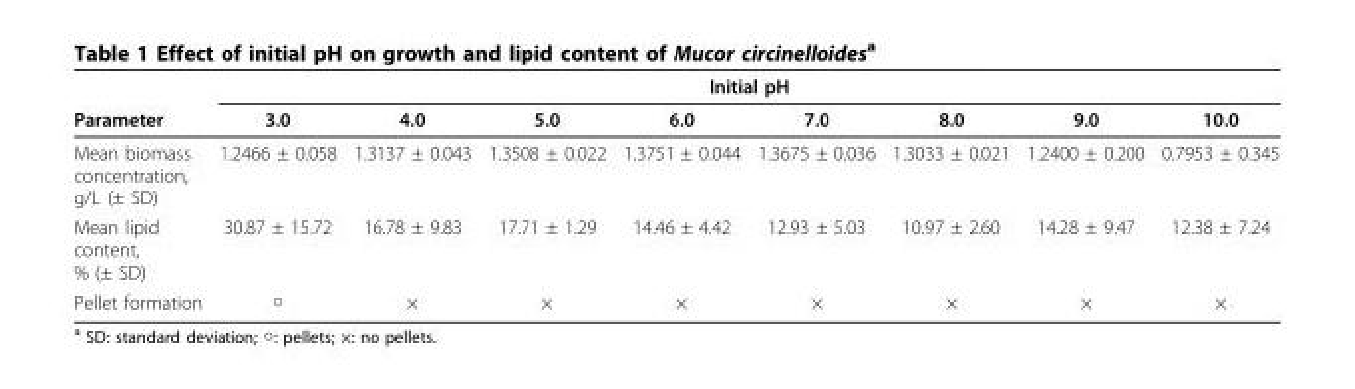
<table><thead><tr><td rowspan="2">Parameter</td><td colspan="8">Initial pH</td></tr><tr><td>3.0</td><td>4.0</td><td>5.0</td><td>6.0</td><td>7.0</td><td>8.0</td><td>9.0</td><td>10.0</td></tr></thead><tbody><tr><td>Mean biomass concentration, g/L (± SD)</td><td>1.2466 ± 0.058</td><td>1.3137 ± 0.043</td><td>1.3508 ± 0.022</td><td>1.3751 ± 0.044</td><td>1.3675 ± 0.036</td><td>1.3033 ± 0.021</td><td>1.2400 ± 0.200</td><td>0.7953 ± 0.345</td></tr><tr><td>Mean lipid content, % (± SD)</td><td>30.87 ± 15.72</td><td>16.78 ± 9.83</td><td>17.71 ± 1.29</td><td>14.46 ± 4.42</td><td>12.93 ± 5.03</td><td>10.97 ± 2.60</td><td>14.28 ± 9.47</td><td>12.38 ± 7.24</td></tr><tr><td>Pellet formation</td><td>○</td><td>×</td><td>×</td><td>×</td><td>×</td><td>×</td><td>×</td><td>×</td></tr></tbody></table>